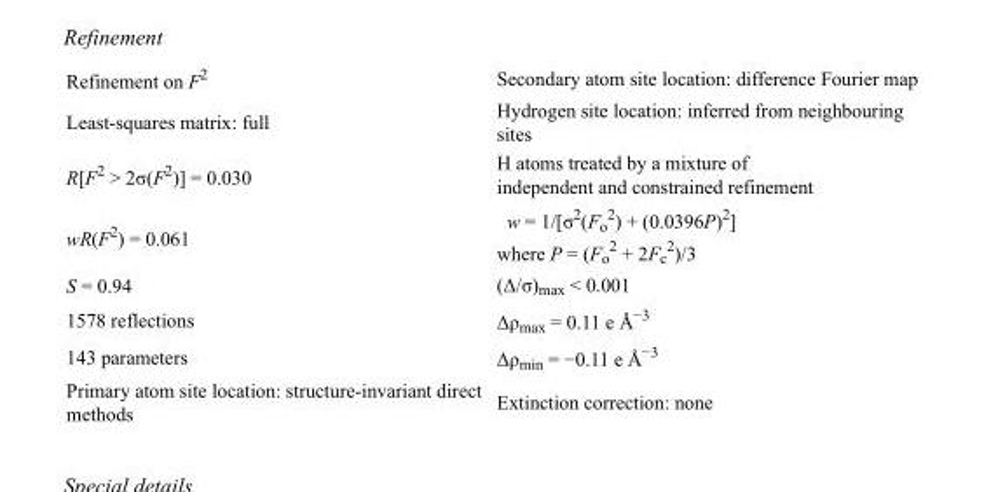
<table><tbody><tr><td>Refinement on F<sup>2</sup></td><td>Secondary atom site location: difference Fourier map</td></tr><tr><td>Least-squares matrix: full</td><td>Hydrogen site location: inferred from neighbouring sites</td></tr><tr><td>R[F<sup>2</sup> &gt; 2σ(F<sup>2</sup>)] = 0.030</td><td>H atoms treated by a mixture of independent and constrained refinement</td></tr><tr><td>wR(F<sup>2</sup>) = 0.061</td><td>w = 1/[σ<sup>2</sup>(F<sub>o</sub> <sup>2</sup>) + (0.0396P)<sup>2</sup>] where P = (F<sub>o</sub> <sup>2</sup> + 2F<sub>c</sub> <sup>2</sup>)/3</td></tr><tr><td>S = 0.94</td><td>(Δ/σ)<sub>max</sub> &lt; 0.001</td></tr><tr><td>1578 reflections</td><td>Δρ<sub>max</sub> = 0.11 e Å<sup>−3</sup></td></tr><tr><td>143 parameters</td><td>Δρ<sub>min</sub> = −0.11 e Å<sup>−3</sup></td></tr><tr><td>Primary atom site location: structure-invariant direct methods</td><td>Extinction correction: none</td></tr></tbody></table>